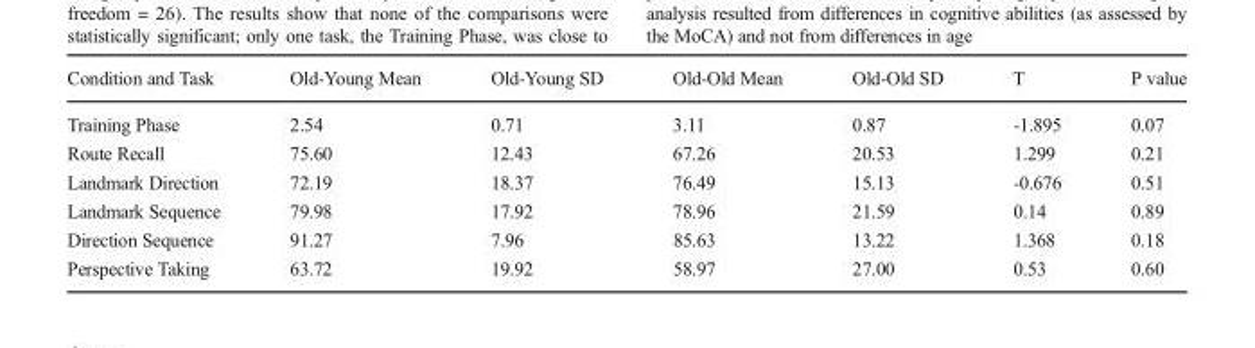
<table><thead><tr><td>Condition and Task</td><td>Old-Young Mean</td><td>Old-Young SD</td><td>Old-Old Mean</td><td>Old-Old SD</td><td>T</td><td>P value</td></tr></thead><tbody><tr><td>Training Phase</td><td>2.54</td><td>0.71</td><td>3.11</td><td>0.87</td><td>-1.895</td><td>0.07</td></tr><tr><td>Route Recall</td><td>75.60</td><td>12.43</td><td>67.26</td><td>20.53</td><td>1.299</td><td>0.21</td></tr><tr><td>Landmark Direction</td><td>72.19</td><td>18.37</td><td>76.49</td><td>15.13</td><td>-0.676</td><td>0.51</td></tr><tr><td>Landmark Sequence</td><td>79.98</td><td>17.92</td><td>78.96</td><td>21.59</td><td>0.14</td><td>0.89</td></tr><tr><td>Direction Sequence</td><td>91.27</td><td>7.96</td><td>85.63</td><td>13.22</td><td>1.368</td><td>0.18</td></tr><tr><td>Perspective Taking</td><td>63.72</td><td>19.92</td><td>58.97</td><td>27.00</td><td>0.53</td><td>0.60</td></tr></tbody></table>